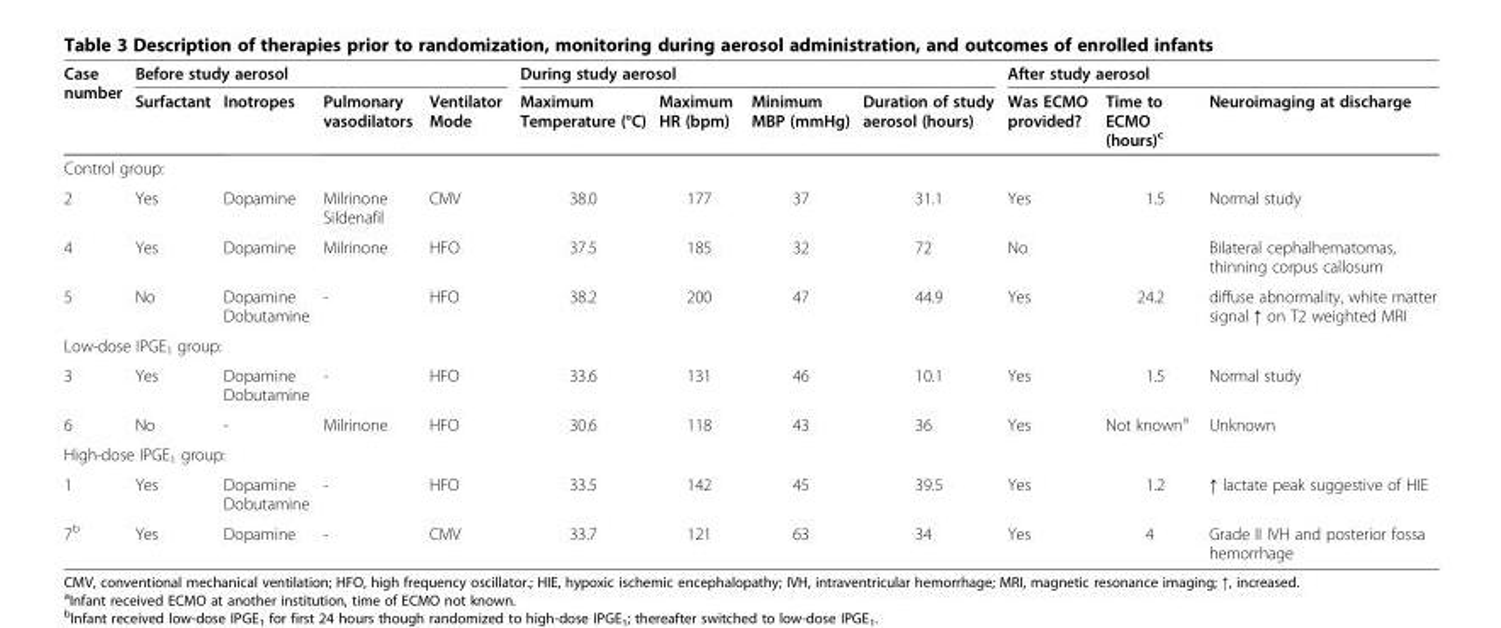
<table><thead><tr><td rowspan="2">Case number</td><td colspan="4">Before study aerosol</td><td colspan="4">During study aerosol</td><td colspan="3">After study aerosol</td></tr><tr><td>Surfactant</td><td>Inotropes</td><td>Pulmonary vasodilators</td><td>Ventilator Mode</td><td>Maximum Temperature (°C)</td><td>Maximum HR (bpm)</td><td>Minimum MBP (mmHg)</td><td>Duration of study aerosol (hours)</td><td>Was ECMO provided?</td><td>Time to ECMO (hours)<sup>c</sup></td><td>Neuroimaging at discharge</td></tr></thead><tbody><tr><td colspan="12">Control group:</td></tr><tr><td>2</td><td>Yes</td><td>Dopamine</td><td>Milrinone Sildenafil</td><td>CMV</td><td>38.0</td><td>177</td><td>37</td><td>31.1</td><td>Yes</td><td>1.5</td><td>Normal study</td></tr><tr><td>4</td><td>Yes</td><td>Dopamine</td><td>Milrinone</td><td>HFO</td><td>37.5</td><td>185</td><td>32</td><td>72</td><td>No</td><td></td><td>Bilateral cephalhematomas, thinning corpus callosum</td></tr><tr><td>5</td><td>No</td><td>Dopamine Dobutamine</td><td>-</td><td>HFO</td><td>38.2</td><td>200</td><td>47</td><td>44.9</td><td>Yes</td><td>24.2</td><td>diffuse abnormality, white matter signal ↑ on T2 weighted MRI</td></tr><tr><td colspan="12">Low-dose IPGE<sub>1</sub> group:</td></tr><tr><td>3</td><td>Yes</td><td>Dopamine Dobutamine</td><td>-</td><td>HFO</td><td>33.6</td><td>131</td><td>46</td><td>10.1</td><td>Yes</td><td>1.5</td><td>Normal study</td></tr><tr><td>6</td><td>No</td><td>-</td><td>Milrinone</td><td>HFO</td><td>30.6</td><td>118</td><td>43</td><td>36</td><td>Yes</td><td>Not known<sup>a</sup></td><td>Unknown</td></tr><tr><td colspan="12">High-dose IPGE<sub>1</sub> group:</td></tr><tr><td>1</td><td>Yes</td><td>Dopamine Dobutamine</td><td>-</td><td>HFO</td><td>33.5</td><td>142</td><td>45</td><td>39.5</td><td>Yes</td><td>1.2</td><td>↑ lactate peak suggestive of HIE</td></tr><tr><td>7<sup>b</sup></td><td>Yes</td><td>Dopamine</td><td>-</td><td>CMV</td><td>33.7</td><td>121</td><td>63</td><td>34</td><td>Yes</td><td>4</td><td>Grade II IVH and posterior fossa hemorrhage</td></tr></tbody></table>